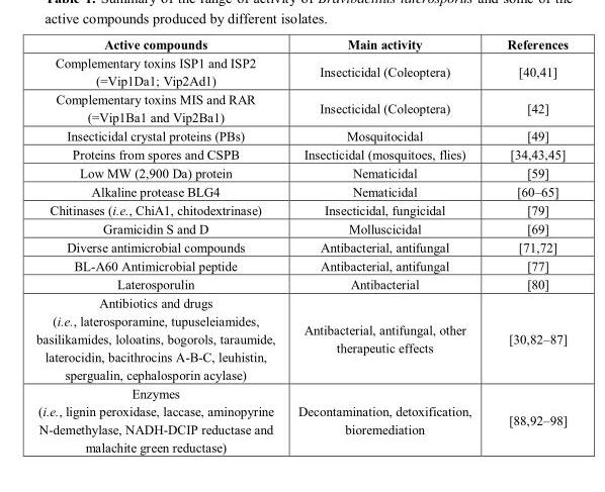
<table><thead><tr><td>Active compounds</td><td>Main activity</td><td>References</td></tr></thead><tbody><tr><td>Complementary toxins ISP1 and ISP2 (=Vip1Da1; Vip2Ad1)</td><td>Insecticidal (Coleoptera)</td><td>[40,41]</td></tr><tr><td>Complementary toxins MIS and RAR (=Vip1Ba1 and Vip2Ba1)</td><td>Insecticidal (Coleoptera)</td><td>[42]</td></tr><tr><td>Insecticidal crystal proteins (PBs)</td><td>Mosquitocidal</td><td>[49]</td></tr><tr><td>Proteins from spores and CSPB</td><td>Insecticidal (mosquitoes, flies)</td><td>[34,43,45]</td></tr><tr><td>Low MW (2,900 Da) protein</td><td>Nematicidal</td><td>[59]</td></tr><tr><td>Alkaline protease BLG4</td><td>Nematicidal</td><td>[60�65]</td></tr><tr><td>Chitinases (i.e., ChiA1, chitodextrinase)</td><td>Insecticidal, fungicidal</td><td>[79]</td></tr><tr><td>Gramicidin S and D</td><td>Molluscicidal</td><td>[69]</td></tr><tr><td>Diverse antimicrobial compounds</td><td>Antibacterial, antifungal</td><td>[71,72]</td></tr><tr><td>BL-A60 Antimicrobial peptide</td><td>Antibacterial, antifungal</td><td>[77]</td></tr><tr><td>Laterosporulin</td><td>Antibacterial</td><td>[80]</td></tr><tr><td>Antibiotics and drugs (i.e., laterosporamine, tupuseleiamides, basilikamides, loloatins, bogorols, taraumide, laterocidin, bacithrocins A-B-C, leuhistin, spergualin, cephalosporin acylase)</td><td>Antibacterial, antifungal, other therapeutic effects</td><td>[30,82�87]</td></tr><tr><td>Enzymes (i.e., lignin peroxidase, laccase, aminopyrine N-demethylase, NADH-DCIP reductase and malachite green reductase)</td><td>Decontamination, detoxification, bioremediation</td><td>[88,92�98]</td></tr></tbody></table>